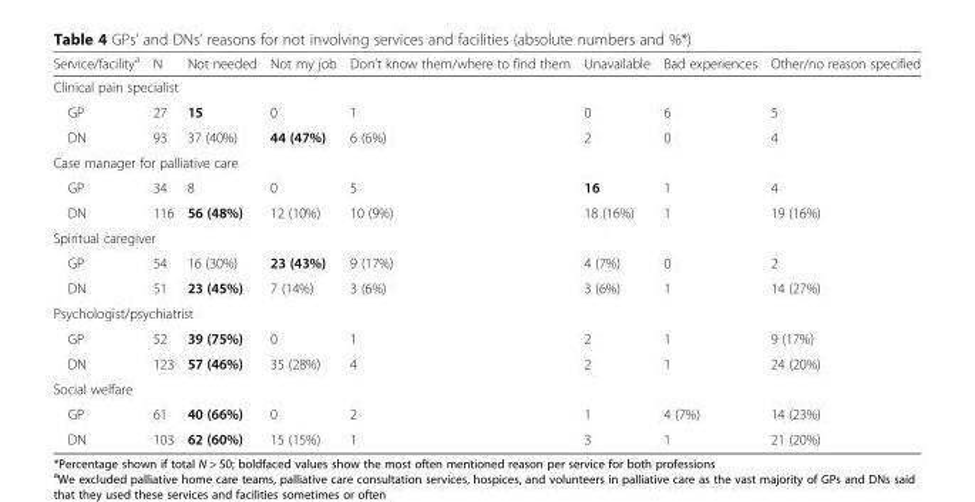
<table><thead><tr><td>Service/facility<sup>a</sup></td><td>N</td><td>Not needed</td><td>Not my job</td><td>Don’t know them/where to find them</td><td>Unavailable</td><td>Bad experiences</td><td>Other/no reason specified</td></tr></thead><tbody><tr><td colspan="8">Clinical pain specialist</td></tr><tr><td>GP</td><td>27</td><td>15</td><td>0</td><td>1</td><td>0</td><td>6</td><td>5</td></tr><tr><td>DN</td><td>93</td><td>37 (40%)</td><td>44 (47%)</td><td>6 (6%)</td><td>2</td><td>0</td><td>4</td></tr><tr><td colspan="8">Case manager for palliative care</td></tr><tr><td>GP</td><td>34</td><td>8</td><td>0</td><td>5</td><td>16</td><td>1</td><td>4</td></tr><tr><td>DN</td><td>116</td><td>56 (48%)</td><td>12 (10%)</td><td>10 (9%)</td><td>18 (16%)</td><td>1</td><td>19 (16%)</td></tr><tr><td colspan="8">Spiritual caregiver</td></tr><tr><td>GP</td><td>54</td><td>16 (30%)</td><td>23 (43%)</td><td>9 (17%)</td><td>4 (7%)</td><td>0</td><td>2</td></tr><tr><td>DN</td><td>51</td><td>23 (45%)</td><td>7 (14%)</td><td>3 (6%)</td><td>3 (6%)</td><td>1</td><td>14 (27%)</td></tr><tr><td colspan="8">Psychologist/psychiatrist</td></tr><tr><td>GP</td><td>52</td><td>39 (75%)</td><td>0</td><td>1</td><td>2</td><td>1</td><td>9 (17%)</td></tr><tr><td>DN</td><td>123</td><td>57 (46%)</td><td>35 (28%)</td><td>4</td><td>2</td><td>1</td><td>24 (20%)</td></tr><tr><td colspan="8">Social welfare</td></tr><tr><td>GP</td><td>61</td><td>40 (66%)</td><td>0</td><td>2</td><td>1</td><td>4 (7%)</td><td>14 (23%)</td></tr><tr><td>DN</td><td>103</td><td>62 (60%)</td><td>15 (15%)</td><td>1</td><td>3</td><td>1</td><td>21 (20%)</td></tr></tbody></table>